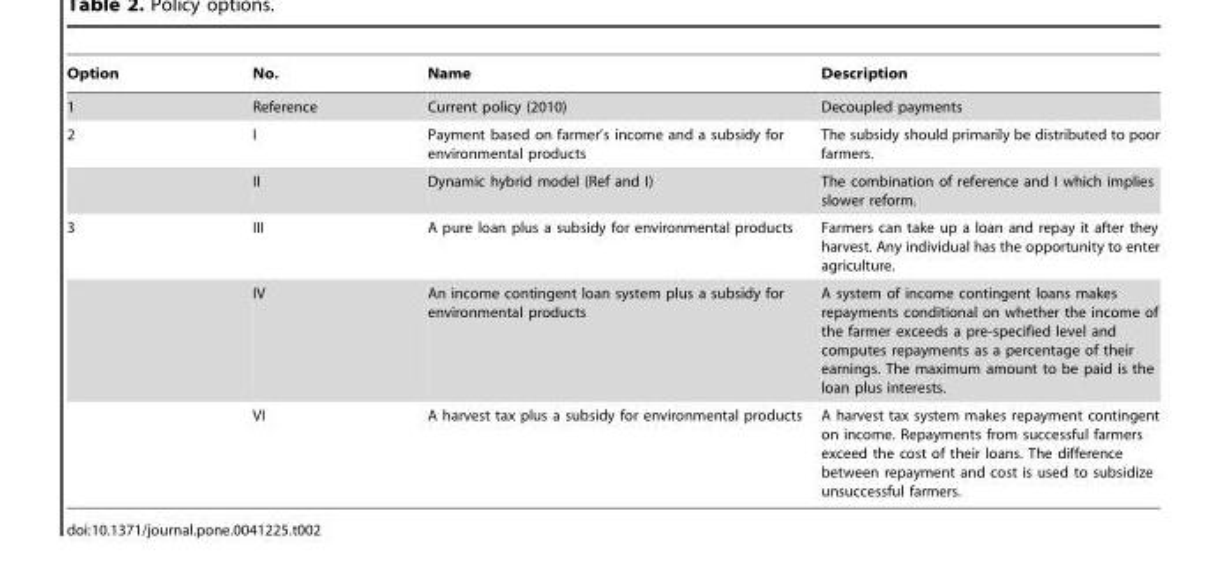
<table><thead><tr><td>Option</td><td>No.</td><td>Name</td><td>Description</td></tr></thead><tbody><tr><td>1</td><td>Reference</td><td>Current policy (2010)</td><td>Decoupled payments</td></tr><tr><td rowspan="2">2</td><td>I</td><td>Payment based on farmer’s income and a subsidy for environmental products</td><td>The subsidy should primarily be distributed to poor farmers.</td></tr><tr><td>II</td><td>Dynamic hybrid model (Ref and I)</td><td>The combination of reference and I which implies slower reform.</td></tr><tr><td rowspan="3">3</td><td>III</td><td>A pure loan plus a subsidy for environmental products</td><td>Farmers can take up a loan and repay it after they harvest. Any individual has the opportunity to enter agriculture.</td></tr><tr><td>IV</td><td>An income contingent loan system plus a subsidy for environmental products</td><td>A system of income contingent loans makes repayments conditional on whether the income of the farmer exceeds a pre-specified level and computes repayments as a percentage of their earnings. The maximum amount to be paid is the loan plus interests.</td></tr><tr><td>VI</td><td>A harvest tax plus a subsidy for environmental products</td><td>A harvest tax system makes repayment contingent on income. Repayments from successful farmers exceed the cost of their loans. The difference between repayment and cost is used to subsidize unsuccessful farmers.</td></tr></tbody></table>